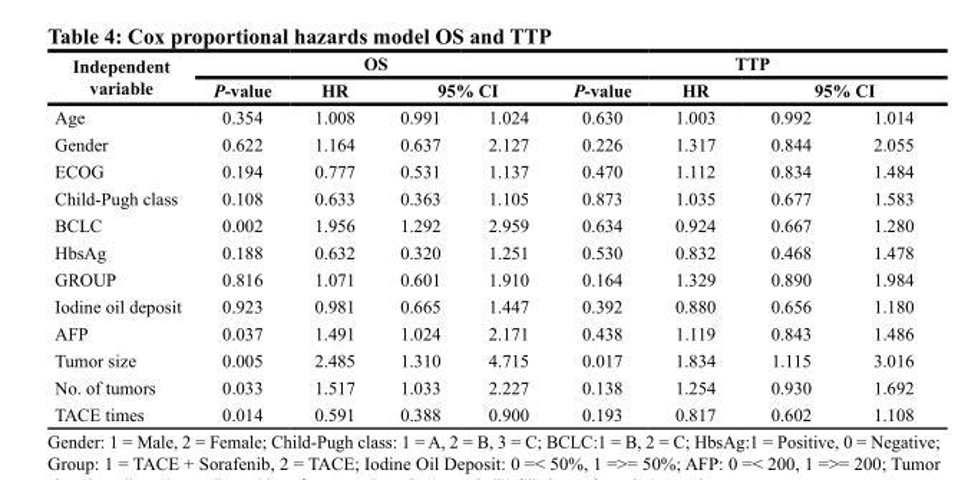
<table><thead><tr><td rowspan="3">Independent variable Age</td><td colspan="4">OS</td><td colspan="4">TTP</td></tr><tr><td rowspan="2">P-value 0.354</td><td rowspan="2">HR 1.008</td><td colspan="2">95% CI</td><td rowspan="2">P-value 0.630</td><td rowspan="2">HR 1.003</td><td colspan="2">95% CI</td></tr><tr><td>0.991</td><td>1.024</td><td>0.992</td><td>1.014</td></tr></thead><tbody><tr><td>Gender</td><td>0.622</td><td>1.164</td><td>0.637</td><td>2.127</td><td>0.226</td><td>1.317</td><td>0.844</td><td>2.055</td></tr><tr><td>ECOG</td><td>0.194</td><td>0.777</td><td>0.531</td><td>1.137</td><td>0.470</td><td>1.112</td><td>0.834</td><td>1.484</td></tr><tr><td>Child-Pugh class</td><td>0.108</td><td>0.633</td><td>0.363</td><td>1.105</td><td>0.873</td><td>1.035</td><td>0.677</td><td>1.583</td></tr><tr><td>BCLC</td><td>0.002</td><td>1.956</td><td>1.292</td><td>2.959</td><td>0.634</td><td>0.924</td><td>0.667</td><td>1.280</td></tr><tr><td>HbsAg</td><td>0.188</td><td>0.632</td><td>0.320</td><td>1.251</td><td>0.530</td><td>0.832</td><td>0.468</td><td>1.478</td></tr><tr><td>GROUP</td><td>0.816</td><td>1.071</td><td>0.601</td><td>1.910</td><td>0.164</td><td>1.329</td><td>0.890</td><td>1.984</td></tr><tr><td>Iodine oil deposit</td><td>0.923</td><td>0.981</td><td>0.665</td><td>1.447</td><td>0.392</td><td>0.880</td><td>0.656</td><td>1.180</td></tr><tr><td>AFP</td><td>0.037</td><td>1.491</td><td>1.024</td><td>2.171</td><td>0.438</td><td>1.119</td><td>0.843</td><td>1.486</td></tr><tr><td>Tumor size</td><td>0.005</td><td>2.485</td><td>1.310</td><td>4.715</td><td>0.017</td><td>1.834</td><td>1.115</td><td>3.016</td></tr><tr><td>No. of tumors</td><td>0.033</td><td>1.517</td><td>1.033</td><td>2.227</td><td>0.138</td><td>1.254</td><td>0.930</td><td>1.692</td></tr><tr><td>TACE times</td><td>0.014</td><td>0.591</td><td>0.388</td><td>0.900</td><td>0.193</td><td>0.817</td><td>0.602</td><td>1.108</td></tr></tbody></table>